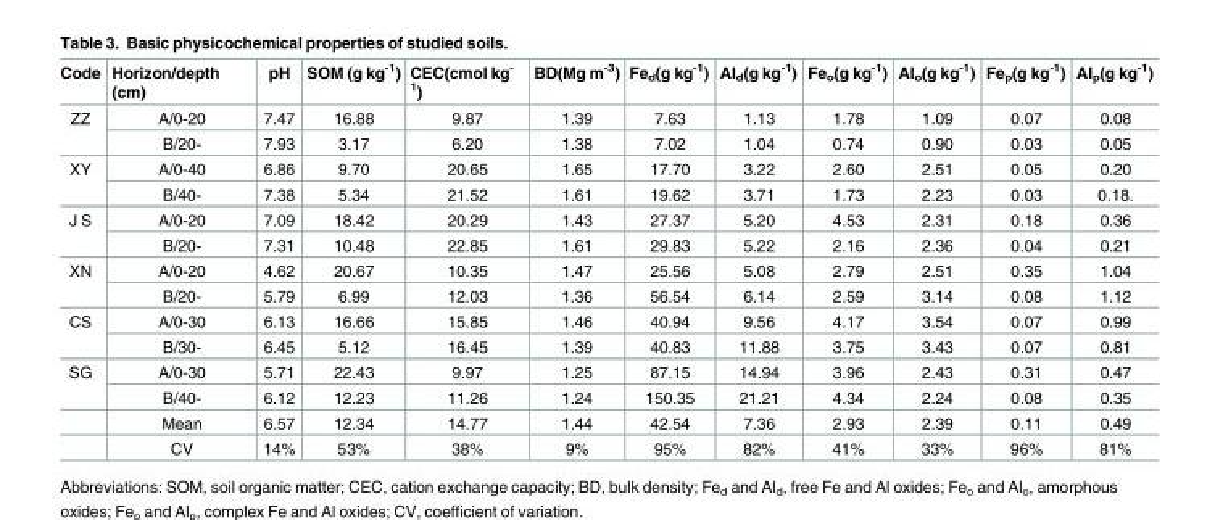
<table><thead><tr><td>Code</td><td>Horizon/depth (cm)</td><td>pH</td><td>SOM (g kg<sup>-1</sup>)</td><td>CEC(cmol kg<sup>- 1</sup>)</td><td>BD(Mg m<sup>-3</sup>)</td><td>Fe<sub>d</sub>(g kg<sup>-1</sup>)</td><td>Al<sub>d</sub>(g kg<sup>-1</sup>)</td><td>Fe<sub>o</sub>(g kg<sup>-1</sup>)</td><td>Al<sub>o</sub>(g kg<sup>-1</sup>)</td><td>Fe<sub>p</sub>(g kg<sup>-1</sup>)</td><td>Al<sub>p</sub>(g kg<sup>-1</sup>)</td></tr></thead><tbody><tr><td rowspan="2">ZZ</td><td>A/0-20</td><td>7.47</td><td>16.88</td><td>9.87</td><td>1.39</td><td>7.63</td><td>1.13</td><td>1.78</td><td>1.09</td><td>0.07</td><td>0.08</td></tr><tr><td>B/20-</td><td>7.93</td><td>3.17</td><td>6.20</td><td>1.38</td><td>7.02</td><td>1.04</td><td>0.74</td><td>0.90</td><td>0.03</td><td>0.05</td></tr><tr><td rowspan="2">XY</td><td>A/0-40</td><td>6.86</td><td>9.70</td><td>20.65</td><td>1.65</td><td>17.70</td><td>3.22</td><td>2.60</td><td>2.51</td><td>0.05</td><td>0.20</td></tr><tr><td>B/40-</td><td>7.38</td><td>5.34</td><td>21.52</td><td>1.61</td><td>19.62</td><td>3.71</td><td>1.73</td><td>2.23</td><td>0.03</td><td>0.18.</td></tr><tr><td rowspan="2">J S</td><td>A/0-20</td><td>7.09</td><td>18.42</td><td>20.29</td><td>1.43</td><td>27.37</td><td>5.20</td><td>4.53</td><td>2.31</td><td>0.18</td><td>0.36</td></tr><tr><td>B/20-</td><td>7.31</td><td>10.48</td><td>22.85</td><td>1.61</td><td>29.83</td><td>5.22</td><td>2.16</td><td>2.36</td><td>0.04</td><td>0.21</td></tr><tr><td rowspan="2">XN</td><td>A/0-20</td><td>4.62</td><td>20.67</td><td>10.35</td><td>1.47</td><td>25.56</td><td>5.08</td><td>2.79</td><td>2.51</td><td>0.35</td><td>1.04</td></tr><tr><td>B/20-</td><td>5.79</td><td>6.99</td><td>12.03</td><td>1.36</td><td>56.54</td><td>6.14</td><td>2.59</td><td>3.14</td><td>0.08</td><td>1.12</td></tr><tr><td rowspan="2">CS</td><td>A/0-30</td><td>6.13</td><td>16.66</td><td>15.85</td><td>1.46</td><td>40.94</td><td>9.56</td><td>4.17</td><td>3.54</td><td>0.07</td><td>0.99</td></tr><tr><td>B/30-</td><td>6.45</td><td>5.12</td><td>16.45</td><td>1.39</td><td>40.83</td><td>11.88</td><td>3.75</td><td>3.43</td><td>0.07</td><td>0.81</td></tr><tr><td rowspan="4">SG</td><td>A/0-30</td><td>5.71</td><td>22.43</td><td>9.97</td><td>1.25</td><td>87.15</td><td>14.94</td><td>3.96</td><td>2.43</td><td>0.31</td><td>0.47</td></tr><tr><td>B/40-</td><td>6.12</td><td>12.23</td><td>11.26</td><td>1.24</td><td>150.35</td><td>21.21</td><td>4.34</td><td>2.24</td><td>0.08</td><td>0.35</td></tr><tr><td>Mean</td><td>6.57</td><td>12.34</td><td>14.77</td><td>1.44</td><td>42.54</td><td>7.36</td><td>2.93</td><td>2.39</td><td>0.11</td><td>0.49</td></tr><tr><td>CV</td><td>14%</td><td>53%</td><td>38%</td><td>9%</td><td>95%</td><td>82%</td><td>41%</td><td>33%</td><td>96%</td><td>81%</td></tr></tbody></table>